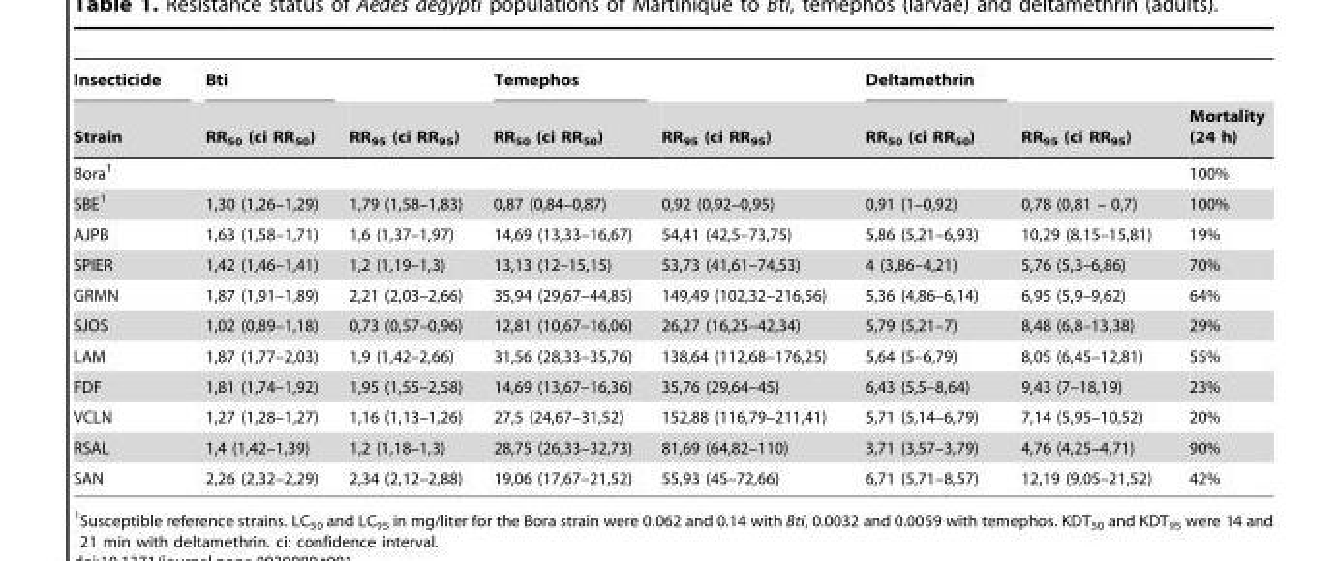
<table><thead><tr><td rowspan="2">Insecticide Strain</td><td rowspan="2">Bti RR<sub>50</sub> (ci RR<sub>50</sub>)</td><td rowspan="2">RR<sub>95</sub> (ci RR<sub>95</sub>)</td><td rowspan="2">Temephos RR<sub>50</sub> (ci RR<sub>50</sub>)</td><td rowspan="2">RR<sub>95</sub> (ci RR<sub>95</sub>)</td><td rowspan="2">Deltamethrin RR<sub>50</sub> (ci RR<sub>50</sub>)</td><td rowspan="2">RR<sub>95</sub> (ci RR<sub>95</sub>)</td><td rowspan="2">Mortality (24 h)</td></tr><tr></tr></thead><tbody><tr><td>Bora<sup>1</sup></td><td></td><td></td><td></td><td></td><td></td><td></td><td>100%</td></tr><tr><td>SBE<sup>1</sup></td><td>1,30 (1,26–1,29)</td><td>1,79 (1,58–1,83)</td><td>0,87 (0,84–0,87)</td><td>0,92 (0,92–0,95)</td><td>0,91 (1–0,92)</td><td>0,78 (0,81 – 0,7)</td><td>100%</td></tr><tr><td>AJPB</td><td>1,63 (1,58–1,71)</td><td>1,6 (1,37–1,97)</td><td>14,69 (13,33–16,67)</td><td>54,41 (42,5–73,75)</td><td>5,86 (5,21–6,93)</td><td>10,29 (8,15–15,81)</td><td>19%</td></tr><tr><td>SPIER</td><td>1,42 (1,46–1,41)</td><td>1,2 (1,19–1,3)</td><td>13,13 (12–15,15)</td><td>53,73 (41,61–74,53)</td><td>4 (3,86–4,21)</td><td>5,76 (5,3–6,86)</td><td>70%</td></tr><tr><td>GRMN</td><td>1,87 (1,91–1,89)</td><td>2,21 (2,03–2,66)</td><td>35,94 (29,67–44,85)</td><td>149,49 (102,32–216,56)</td><td>5,36 (4,86–6,14)</td><td>6,95 (5,9–9,62)</td><td>64%</td></tr><tr><td>SJOS</td><td>1,02 (0,89–1,18)</td><td>0,73 (0,57–0,96)</td><td>12,81 (10,67–16,06)</td><td>26,27 (16,25–42,34)</td><td>5,79 (5,21–7)</td><td>8,48 (6,8–13,38)</td><td>29%</td></tr><tr><td>LAM</td><td>1,87 (1,77–2,03)</td><td>1,9 (1,42–2,66)</td><td>31,56 (28,33–35,76)</td><td>138,64 (112,68–176,25)</td><td>5,64 (5–6,79)</td><td>8,05 (6,45–12,81)</td><td>55%</td></tr><tr><td>FDF</td><td>1,81 (1,74–1,92)</td><td>1,95 (1,55–2,58)</td><td>14,69 (13,67–16,36)</td><td>35,76 (29,64–45)</td><td>6,43 (5,5–8,64)</td><td>9,43 (7–18,19)</td><td>23%</td></tr><tr><td>VCLN</td><td>1,27 (1,28–1,27)</td><td>1,16 (1,13–1,26)</td><td>27,5 (24,67–31,52)</td><td>152,88 (116,79–211,41)</td><td>5,71 (5,14–6,79)</td><td>7,14 (5,95–10,52)</td><td>20%</td></tr><tr><td>RSAL</td><td>1,4 (1,42–1,39)</td><td>1,2 (1,18–1,3)</td><td>28,75 (26,33–32,73)</td><td>81,69 (64,82–110)</td><td>3,71 (3,57–3,79)</td><td>4,76 (4,25–4,71)</td><td>90%</td></tr><tr><td>SAN</td><td>2,26 (2,32–2,29)</td><td>2,34 (2,12–2,88)</td><td>19,06 (17,67–21,52)</td><td>55,93 (45–72,66)</td><td>6,71 (5,71–8,57)</td><td>12,19 (9,05–21,52)</td><td>42%</td></tr></tbody></table>